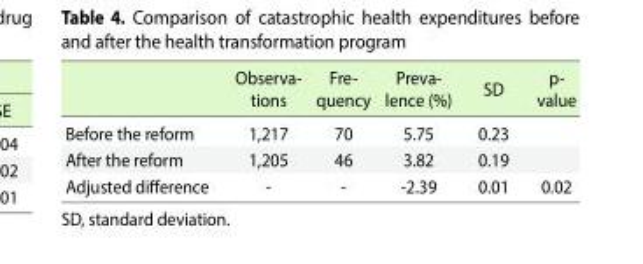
<table><thead><tr><td></td><td>Observa- tions</td><td>Fre- quency</td><td>Preva- lence (%)</td><td>SD</td><td>p- value</td></tr></thead><tbody><tr><td>Before the reform</td><td>1,217</td><td>70</td><td>5.75</td><td>0.23</td><td></td></tr><tr><td>After the reform</td><td>1,205</td><td>46</td><td>3.82</td><td>0.19</td><td></td></tr><tr><td>Adjusted difference</td><td>-</td><td>-</td><td>-2.39</td><td>0.01</td><td>0.02</td></tr></tbody></table>